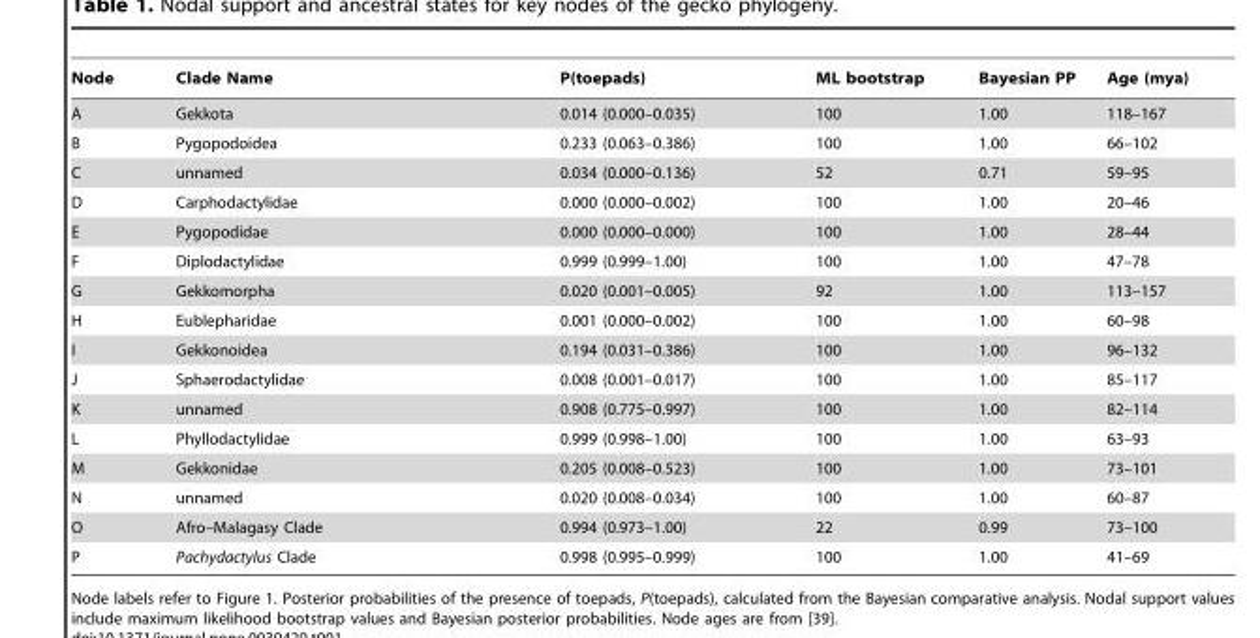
<table><thead><tr><td>Node</td><td>Clade Name</td><td>P(toepads)</td><td>ML bootstrap</td><td>Bayesian PP</td><td>Age (mya)</td></tr></thead><tbody><tr><td>A</td><td>Gekkota</td><td>0.014 (0.000–0.035)</td><td>100</td><td>1.00</td><td>118–167</td></tr><tr><td>B</td><td>Pygopodoidea</td><td>0.233 (0.063–0.386)</td><td>100</td><td>1.00</td><td>66–102</td></tr><tr><td>C</td><td>unnamed</td><td>0.034 (0.000–0.136)</td><td>52</td><td>0.71</td><td>59–95</td></tr><tr><td>D</td><td>Carphodactylidae</td><td>0.000 (0.000–0.002)</td><td>100</td><td>1.00</td><td>20–46</td></tr><tr><td>E</td><td>Pygopodidae</td><td>0.000 (0.000–0.000)</td><td>100</td><td>1.00</td><td>28–44</td></tr><tr><td>F</td><td>Diplodactylidae</td><td>0.999 (0.999–1.00)</td><td>100</td><td>1.00</td><td>47–78</td></tr><tr><td>G</td><td>Gekkomorpha</td><td>0.020 (0.001–0.005)</td><td>92</td><td>1.00</td><td>113–157</td></tr><tr><td>H</td><td>Eublepharidae</td><td>0.001 (0.000–0.002)</td><td>100</td><td>1.00</td><td>60–98</td></tr><tr><td>I</td><td>Gekkonoidea</td><td>0.194 (0.031–0.386)</td><td>100</td><td>1.00</td><td>96–132</td></tr><tr><td>J</td><td>Sphaerodactylidae</td><td>0.008 (0.001–0.017)</td><td>100</td><td>1.00</td><td>85–117</td></tr><tr><td>K</td><td>unnamed</td><td>0.908 (0.775–0.997)</td><td>100</td><td>1.00</td><td>82–114</td></tr><tr><td>L</td><td>Phyllodactylidae</td><td>0.999 (0.998–1.00)</td><td>100</td><td>1.00</td><td>63–93</td></tr><tr><td>M</td><td>Gekkonidae</td><td>0.205 (0.008–0.523)</td><td>100</td><td>1.00</td><td>73–101</td></tr><tr><td>N</td><td>unnamed</td><td>0.020 (0.008–0.034)</td><td>100</td><td>1.00</td><td>60–87</td></tr><tr><td>O</td><td>Afro–Malagasy Clade</td><td>0.994 (0.973–1.00)</td><td>22</td><td>0.99</td><td>73–100</td></tr><tr><td>P</td><td>Pachydactylus Clade</td><td>0.998 (0.995–0.999)</td><td>100</td><td>1.00</td><td>41–69</td></tr></tbody></table>